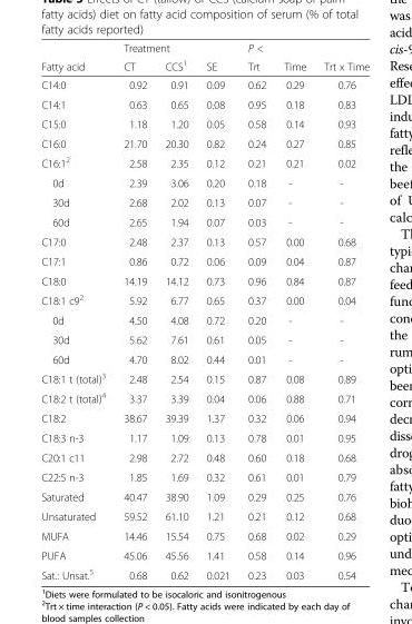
<table><thead><tr><td rowspan="2">Fatty acid</td><td colspan="2">Treatment</td><td rowspan="2">SE</td><td colspan="3">P &lt;</td></tr><tr><td>CT</td><td>CCS<sup>1</sup></td><td>Trt</td><td>Time</td><td>Trt x Time</td></tr></thead><tbody><tr><td>C14:0</td><td>0.92</td><td>0.91</td><td>0.09</td><td>0.62</td><td>0.29</td><td>0.76</td></tr><tr><td>C14:1</td><td>0.63</td><td>0.65</td><td>0.08</td><td>0.95</td><td>0.18</td><td>0.83</td></tr><tr><td>C15:0</td><td>1.18</td><td>1.20</td><td>0.05</td><td>0.58</td><td>0.14</td><td>0.93</td></tr><tr><td>C16:0</td><td>21.70</td><td>20.30</td><td>0.82</td><td>0.24</td><td>0.27</td><td>0.85</td></tr><tr><td>C16:1<sup>2</sup></td><td>2.58</td><td>2.35</td><td>0.12</td><td>0.21</td><td>0.21</td><td>0.02</td></tr><tr><td>0d</td><td>2.39</td><td>3.06</td><td>0.20</td><td>0.18</td><td>-</td><td>-</td></tr><tr><td>30d</td><td>2.68</td><td>2.02</td><td>0.13</td><td>0.07</td><td>-</td><td>-</td></tr><tr><td>60d</td><td>2.65</td><td>1.94</td><td>0.07</td><td>0.03</td><td>-</td><td>-</td></tr><tr><td>C17:0</td><td>2.48</td><td>2.37</td><td>0.13</td><td>0.57</td><td>0.00</td><td>0.68</td></tr><tr><td>C17:1</td><td>0.86</td><td>0.72</td><td>0.06</td><td>0.09</td><td>0.04</td><td>0.87</td></tr><tr><td>C18:0</td><td>14.19</td><td>14.12</td><td>0.73</td><td>0.96</td><td>0.84</td><td>0.87</td></tr><tr><td>C18:1 c9<sup>2</sup></td><td>5.92</td><td>6.77</td><td>0.65</td><td>0.37</td><td>0.00</td><td>0.04</td></tr><tr><td>0d</td><td>4.50</td><td>4.08</td><td>0.72</td><td>0.20</td><td>-</td><td>-</td></tr><tr><td>30d</td><td>5.62</td><td>7.61</td><td>0.61</td><td>0.05</td><td>-</td><td>-</td></tr><tr><td>60d</td><td>4.70</td><td>8.02</td><td>0.44</td><td>0.01</td><td>-</td><td>-</td></tr><tr><td>C18:1 t (total)<sup>3</sup></td><td>2.48</td><td>2.54</td><td>0.15</td><td>0.87</td><td>0.08</td><td>0.89</td></tr><tr><td>C18:2 t (total)<sup>4</sup></td><td>3.37</td><td>3.39</td><td>0.04</td><td>0.06</td><td>0.88</td><td>0.71</td></tr><tr><td>C18:2</td><td>38.67</td><td>39.39</td><td>1.37</td><td>0.32</td><td>0.06</td><td>0.94</td></tr><tr><td>C18:3 n-3</td><td>1.17</td><td>1.09</td><td>0.13</td><td>0.78</td><td>0.01</td><td>0.95</td></tr><tr><td>C20:1 c11</td><td>2.98</td><td>2.72</td><td>0.48</td><td>0.60</td><td>0.18</td><td>0.68</td></tr><tr><td>C22:5 n-3</td><td>1.85</td><td>1.69</td><td>0.32</td><td>0.61</td><td>0.01</td><td>0.79</td></tr><tr><td>Saturated</td><td>40.47</td><td>38.90</td><td>1.09</td><td>0.29</td><td>0.25</td><td>0.76</td></tr><tr><td>Unsaturated</td><td>59.52</td><td>61.10</td><td>1.21</td><td>0.21</td><td>0.12</td><td>0.68</td></tr><tr><td>MUFA</td><td>14.46</td><td>15.54</td><td>0.75</td><td>0.68</td><td>0.02</td><td>0.29</td></tr><tr><td>PUFA</td><td>45.06</td><td>45.56</td><td>1.41</td><td>0.58</td><td>0.14</td><td>0.96</td></tr><tr><td>Sat.: Unsat.<sup>5</sup></td><td>0.68</td><td>0.62</td><td>0.021</td><td>0.23</td><td>0.03</td><td>0.54</td></tr></tbody></table>